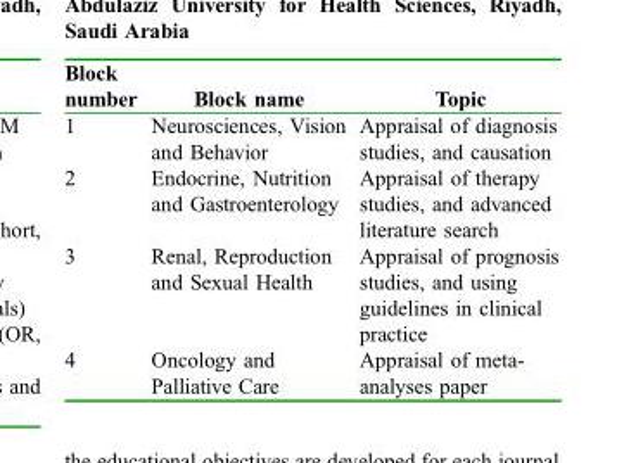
<table><thead><tr><td>Block number</td><td>Block name</td><td>Topic</td></tr></thead><tbody><tr><td>1</td><td>Neurosciences, Vision and Behavior</td><td>Appraisal of diagnosis studies, and causation</td></tr><tr><td>2</td><td>Endocrine, Nutrition and Gastroenterology</td><td>Appraisal of therapy studies, and advanced literature search</td></tr><tr><td>3</td><td>Renal, Reproduction and Sexual Health</td><td>Appraisal of prognosis studies, and using guidelines in clinical practice</td></tr><tr><td>4</td><td>Oncology and Palliative Care</td><td>Appraisal of meta- analyses paper</td></tr></tbody></table>